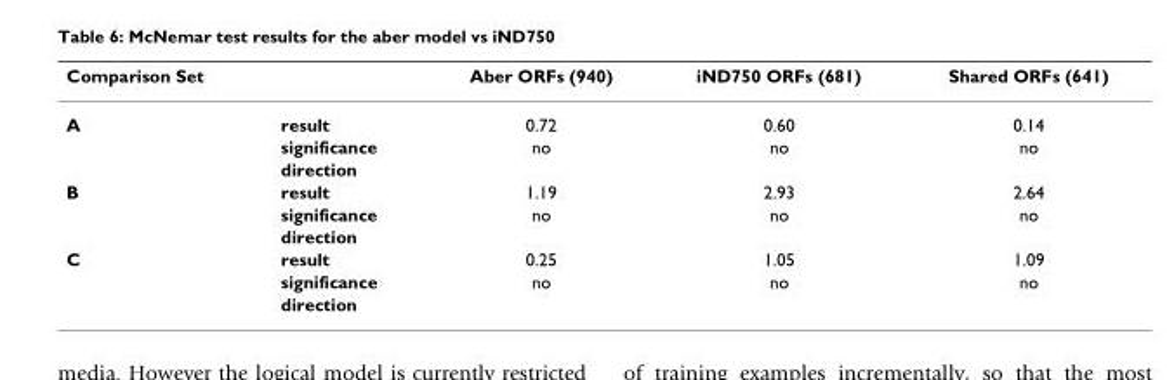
<table><thead><tr><td>Comparison Set</td><td></td><td>Aber ORFs (940)</td><td>iND750 ORFs (681)</td><td>Shared ORFs (641)</td></tr></thead><tbody><tr><td rowspan="3">A</td><td>result</td><td>0.72</td><td>0.60</td><td>0.14</td></tr><tr><td>significance</td><td>no</td><td>no</td><td>no</td></tr><tr><td>direction</td><td></td><td></td><td></td></tr><tr><td rowspan="3">B</td><td>result</td><td>1.19</td><td>2.93</td><td>2.64</td></tr><tr><td>significance</td><td>no</td><td>no</td><td>no</td></tr><tr><td>direction</td><td></td><td></td><td></td></tr><tr><td rowspan="3">C</td><td>result</td><td>0.25</td><td>1.05</td><td>1.09</td></tr><tr><td>significance</td><td>no</td><td>no</td><td>no</td></tr><tr><td>direction</td><td></td><td></td><td></td></tr></tbody></table>